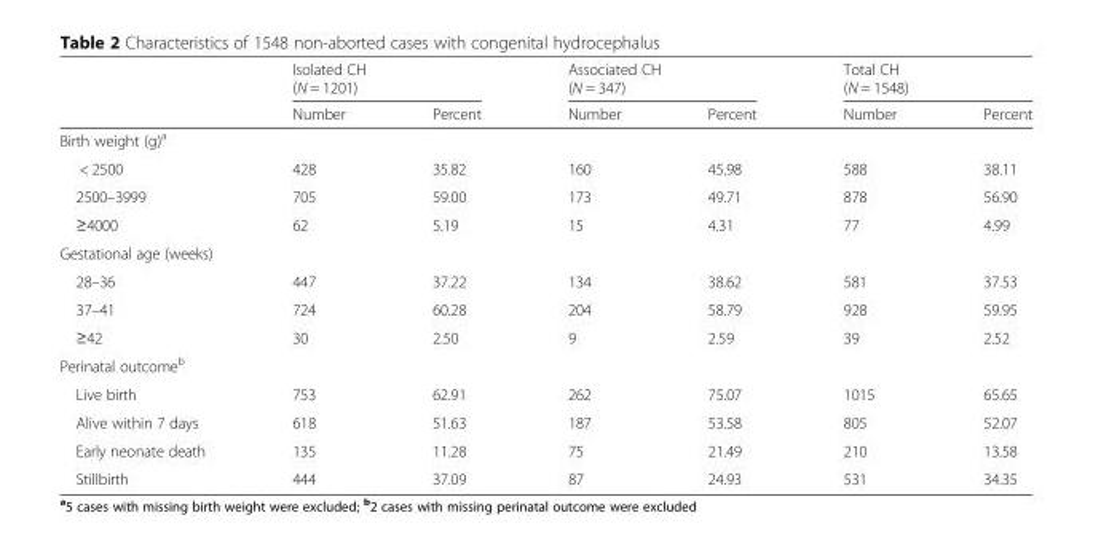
<table><thead><tr><td rowspan="2"></td><td colspan="2">Isolated CH (N = 1201)</td><td colspan="2">Associated CH (N = 347)</td><td colspan="2">Total CH (N = 1548)</td></tr><tr><td>Number</td><td>Percent</td><td>Number</td><td>Percent</td><td>Number</td><td>Percent</td></tr></thead><tbody><tr><td colspan="7">Birth weight (g)<sup>a</sup></td></tr><tr><td>&lt; 2500</td><td>428</td><td>35.82</td><td>160</td><td>45.98</td><td>588</td><td>38.11</td></tr><tr><td>2500–3999</td><td>705</td><td>59.00</td><td>173</td><td>49.71</td><td>878</td><td>56.90</td></tr><tr><td>≥4000</td><td>62</td><td>5.19</td><td>15</td><td>4.31</td><td>77</td><td>4.99</td></tr><tr><td colspan="7">Gestational age (weeks)</td></tr><tr><td>28–36</td><td>447</td><td>37.22</td><td>134</td><td>38.62</td><td>581</td><td>37.53</td></tr><tr><td>37–41</td><td>724</td><td>60.28</td><td>204</td><td>58.79</td><td>928</td><td>59.95</td></tr><tr><td>≥42</td><td>30</td><td>2.50</td><td>9</td><td>2.59</td><td>39</td><td>2.52</td></tr><tr><td colspan="7">Perinatal outcome<sup>b</sup></td></tr><tr><td>Live birth</td><td>753</td><td>62.91</td><td>262</td><td>75.07</td><td>1015</td><td>65.65</td></tr><tr><td>Alive within 7 days</td><td>618</td><td>51.63</td><td>187</td><td>53.58</td><td>805</td><td>52.07</td></tr><tr><td>Early neonate death</td><td>135</td><td>11.28</td><td>75</td><td>21.49</td><td>210</td><td>13.58</td></tr><tr><td>Stillbirth</td><td>444</td><td>37.09</td><td>87</td><td>24.93</td><td>531</td><td>34.35</td></tr></tbody></table>